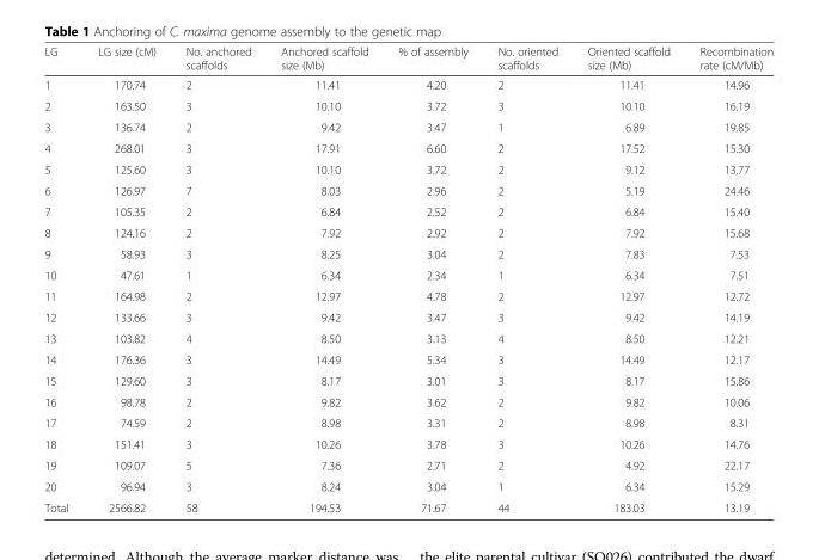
<table><thead><tr><td>LG</td><td>LG size (cM)</td><td>No. anchored scaffolds</td><td>Anchored scaffold size (Mb)</td><td>% of assembly</td><td>No. oriented scaffolds</td><td>Oriented scaffold size (Mb)</td><td>Recombination rate (cM/Mb)</td></tr></thead><tbody><tr><td>1</td><td>170.74</td><td>2</td><td>11.41</td><td>4.20</td><td>2</td><td>11.41</td><td>14.96</td></tr><tr><td>2</td><td>163.50</td><td>3</td><td>10.10</td><td>3.72</td><td>3</td><td>10.10</td><td>16.19</td></tr><tr><td>3</td><td>136.74</td><td>2</td><td>9.42</td><td>3.47</td><td>1</td><td>6.89</td><td>19.85</td></tr><tr><td>4</td><td>268.01</td><td>3</td><td>17.91</td><td>6.60</td><td>2</td><td>17.52</td><td>15.30</td></tr><tr><td>5</td><td>125.60</td><td>3</td><td>10.10</td><td>3.72</td><td>2</td><td>9.12</td><td>13.77</td></tr><tr><td>6</td><td>126.97</td><td>7</td><td>8.03</td><td>2.96</td><td>2</td><td>5.19</td><td>24.46</td></tr><tr><td>7</td><td>105.35</td><td>2</td><td>6.84</td><td>2.52</td><td>2</td><td>6.84</td><td>15.40</td></tr><tr><td>8</td><td>124.16</td><td>2</td><td>7.92</td><td>2.92</td><td>2</td><td>7.92</td><td>15.68</td></tr><tr><td>9</td><td>58.93</td><td>3</td><td>8.25</td><td>3.04</td><td>2</td><td>7.83</td><td>7.53</td></tr><tr><td>10</td><td>47.61</td><td>1</td><td>6.34</td><td>2.34</td><td>1</td><td>6.34</td><td>7.51</td></tr><tr><td>11</td><td>164.98</td><td>2</td><td>12.97</td><td>4.78</td><td>2</td><td>12.97</td><td>12.72</td></tr><tr><td>12</td><td>133.66</td><td>3</td><td>9.42</td><td>3.47</td><td>3</td><td>9.42</td><td>14.19</td></tr><tr><td>13</td><td>103.82</td><td>4</td><td>8.50</td><td>3.13</td><td>4</td><td>8.50</td><td>12.21</td></tr><tr><td>14</td><td>176.36</td><td>3</td><td>14.49</td><td>5.34</td><td>3</td><td>14.49</td><td>12.17</td></tr><tr><td>15</td><td>129.60</td><td>3</td><td>8.17</td><td>3.01</td><td>3</td><td>8.17</td><td>15.86</td></tr><tr><td>16</td><td>98.78</td><td>2</td><td>9.82</td><td>3.62</td><td>2</td><td>9.82</td><td>10.06</td></tr><tr><td>17</td><td>74.59</td><td>2</td><td>8.98</td><td>3.31</td><td>2</td><td>8.98</td><td>8.31</td></tr><tr><td>18</td><td>151.41</td><td>3</td><td>10.26</td><td>3.78</td><td>3</td><td>10.26</td><td>14.76</td></tr><tr><td>19</td><td>109.07</td><td>5</td><td>7.36</td><td>2.71</td><td>2</td><td>4.92</td><td>22.17</td></tr><tr><td>20</td><td>96.94</td><td>3</td><td>8.24</td><td>3.04</td><td>1</td><td>6.34</td><td>15.29</td></tr><tr><td>Total</td><td>2566.82</td><td>58</td><td>194.53</td><td>71.67</td><td>44</td><td>183.03</td><td>13.19</td></tr></tbody></table>